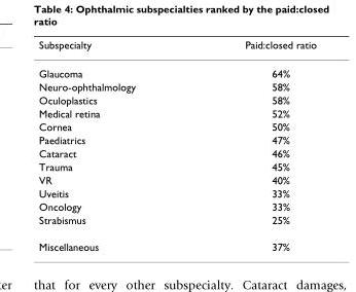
<table><thead><tr><td>Subspecialty</td><td>Paid:closed ratio</td></tr></thead><tbody><tr><td>Glaucoma</td><td>64%</td></tr><tr><td>Neuro-ophthalmology</td><td>58%</td></tr><tr><td>Oculoplastics</td><td>58%</td></tr><tr><td>Medical retina</td><td>52%</td></tr><tr><td>Cornea</td><td>50%</td></tr><tr><td>Paediatrics</td><td>47%</td></tr><tr><td>Cataract</td><td>46%</td></tr><tr><td>Trauma</td><td>45%</td></tr><tr><td>VR</td><td>40%</td></tr><tr><td>Uveitis</td><td>33%</td></tr><tr><td>Oncology</td><td>33%</td></tr><tr><td>Strabismus</td><td>25%</td></tr><tr><td>Miscellaneous</td><td>37%</td></tr></tbody></table>